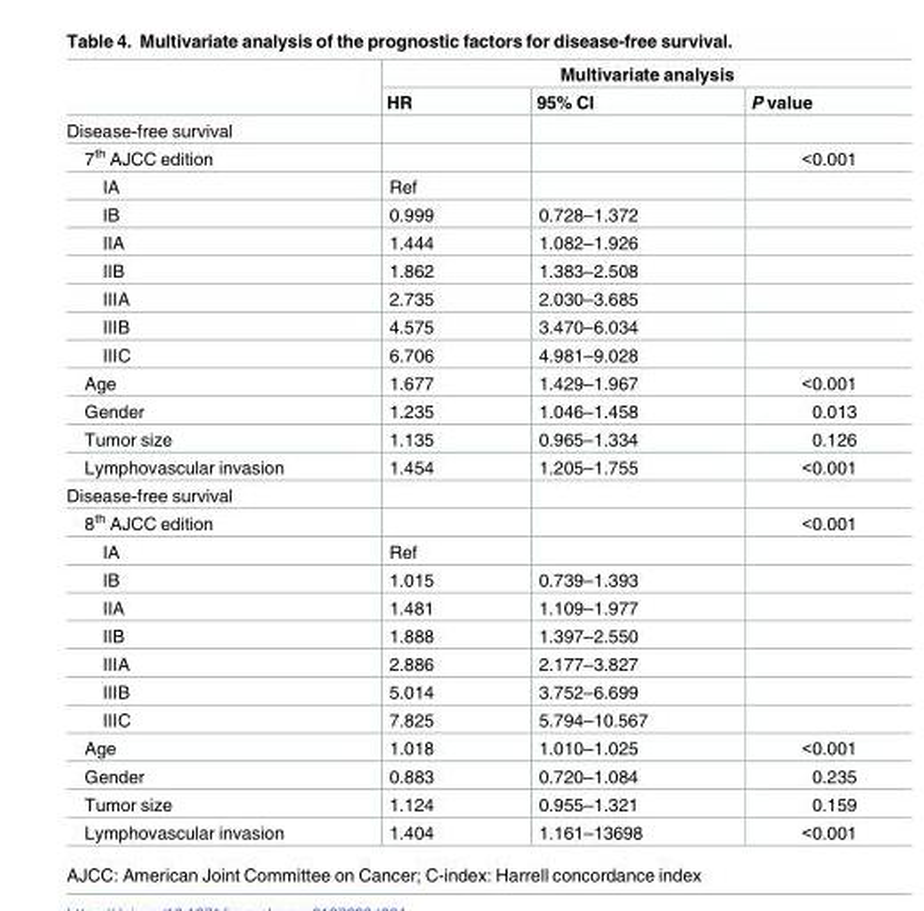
<table><thead><tr><td rowspan="2"></td><td colspan="3">Multivariate analysis</td></tr><tr><td>HR</td><td>95% CI</td><td>P value</td></tr></thead><tbody><tr><td colspan="4">Disease-free survival</td></tr><tr><td>7<sup>th</sup> AJCC edition</td><td></td><td></td><td>&lt;0.001</td></tr><tr><td>IA</td><td>Ref</td><td></td><td></td></tr><tr><td>IB</td><td>0.999</td><td>0.728–1.372</td><td></td></tr><tr><td>IIA</td><td>1.444</td><td>1.082–1.926</td><td></td></tr><tr><td>IIB</td><td>1.862</td><td>1.383–2.508</td><td></td></tr><tr><td>IIIA</td><td>2.735</td><td>2.030–3.685</td><td></td></tr><tr><td>IIIB</td><td>4.575</td><td>3.470–6.034</td><td></td></tr><tr><td>IIIC</td><td>6.706</td><td>4.981–9.028</td><td></td></tr><tr><td>Age</td><td>1.677</td><td>1.429–1.967</td><td>&lt;0.001</td></tr><tr><td>Gender</td><td>1.235</td><td>1.046–1.458</td><td>0.013</td></tr><tr><td>Tumor size</td><td>1.135</td><td>0.965–1.334</td><td>0.126</td></tr><tr><td>Lymphovascular invasion</td><td>1.454</td><td>1.205–1.755</td><td>&lt;0.001</td></tr><tr><td colspan="4">Disease-free survival</td></tr><tr><td>8<sup>th</sup> AJCC edition</td><td></td><td></td><td>&lt;0.001</td></tr><tr><td>IA</td><td>Ref</td><td></td><td></td></tr><tr><td>IB</td><td>1.015</td><td>0.739–1.393</td><td></td></tr><tr><td>IIA</td><td>1.481</td><td>1.109–1.977</td><td></td></tr><tr><td>IIB</td><td>1.888</td><td>1.397–2.550</td><td></td></tr><tr><td>IIIA</td><td>2.886</td><td>2.177–3.827</td><td></td></tr><tr><td>IIIB</td><td>5.014</td><td>3.752–6.699</td><td></td></tr><tr><td>IIIC</td><td>7.825</td><td>5.794–10.567</td><td></td></tr><tr><td>Age</td><td>1.018</td><td>1.010–1.025</td><td>&lt;0.001</td></tr><tr><td>Gender</td><td>0.883</td><td>0.720–1.084</td><td>0.235</td></tr><tr><td>Tumor size</td><td>1.124</td><td>0.955–1.321</td><td>0.159</td></tr><tr><td>Lymphovascular invasion</td><td>1.404</td><td>1.161–13698</td><td>&lt;0.001</td></tr></tbody></table>